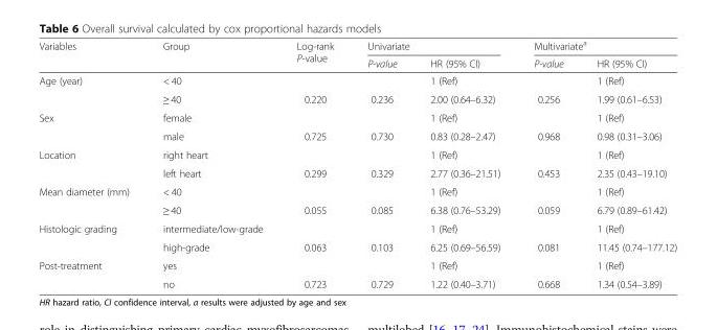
<table><thead><tr><td rowspan="2">Variables</td><td rowspan="2">Group</td><td rowspan="2">Log-rank P-value</td><td colspan="2">Univariate</td><td colspan="2">Multivariate<sup>a</sup></td></tr><tr><td>P-value</td><td>HR (95% CI)</td><td>P-value</td><td>HR (95% CI)</td></tr></thead><tbody><tr><td rowspan="2">Age (year)</td><td>&lt; 40</td><td></td><td></td><td>1 (Ref)</td><td></td><td>1 (Ref)</td></tr><tr><td>≥ 40</td><td>0.220</td><td>0.236</td><td>2.00 (0.64–6.32)</td><td>0.256</td><td>1.99 (0.61–6.53)</td></tr><tr><td rowspan="2">Sex</td><td>female</td><td></td><td></td><td>1 (Ref)</td><td></td><td>1 (Ref)</td></tr><tr><td>male</td><td>0.725</td><td>0.730</td><td>0.83 (0.28–2.47)</td><td>0.968</td><td>0.98 (0.31–3.06)</td></tr><tr><td rowspan="2">Location</td><td>right heart</td><td></td><td></td><td>1 (Ref)</td><td></td><td>1 (Ref)</td></tr><tr><td>left heart</td><td>0.299</td><td>0.329</td><td>2.77 (0.36–21.51)</td><td>0.453</td><td>2.35 (0.43–19.10)</td></tr><tr><td rowspan="2">Mean diameter (mm)</td><td>&lt; 40</td><td></td><td></td><td>1 (Ref)</td><td></td><td>1 (Ref)</td></tr><tr><td>≥ 40</td><td>0.055</td><td>0.085</td><td>6.38 (0.76–53.29)</td><td>0.059</td><td>6.79 (0.89–61.42)</td></tr><tr><td rowspan="2">Histologic grading</td><td>intermediate/low-grade</td><td></td><td></td><td>1 (Ref)</td><td></td><td>1 (Ref)</td></tr><tr><td>high-grade</td><td>0.063</td><td>0.103</td><td>6.25 (0.69–56.59)</td><td>0.081</td><td>11.45 (0.74–177.12)</td></tr><tr><td rowspan="2">Post-treatment</td><td>yes</td><td></td><td></td><td>1 (Ref)</td><td></td><td>1 (Ref)</td></tr><tr><td>no</td><td>0.723</td><td>0.729</td><td>1.22 (0.40–3.71)</td><td>0.668</td><td>1.34 (0.54–3.89)</td></tr></tbody></table>